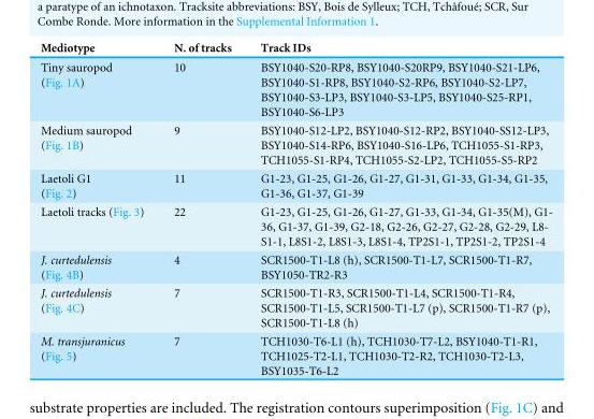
<table><thead><tr><td>Mediotype</td><td>N. of tracks</td><td>Track IDs</td></tr></thead><tbody><tr><td>Tiny sauropod (Fig. 1A)</td><td>10</td><td>BSY1040-S20-RP8, BSY1040-S20RP9, BSY1040-S21-LP6, BSY1040-S1-RP8, BSY1040-S2-RP6, BSY1040-S2-LP7, BSY1040-S3-LP3, BSY1040-S3-LP5, BSY1040-S25-RP1, BSY1040-S6-LP3</td></tr><tr><td>Medium sauropod (Fig. 1B)</td><td>9</td><td>BSY1040-S12-LP2, BSY1040-S12-RP2, BSY1040-SS12-LP3, BSY1040-S14-RP6, BSY1040-S16-LP6, TCH1055-S1-RP3, TCH1055-S1-RP4, TCH1055-S2-LP2, TCH1055-S5-RP2</td></tr><tr><td>Laetoli G1 (Fig. 2)</td><td>11</td><td>G1-23, G1-25, G1-26, G1-27, G1-31, G1-33, G1-34, G1-35, G1-36, G1-37, G1-39</td></tr><tr><td>Laetoli tracks (Fig. 3)</td><td>22</td><td>G1-23, G1-25, G1-26, G1-27, G1-33, G1-34, G1-35(M), G1- 36, G1-37, G1-39, G2-18, G2-26, G2-27, G2-28, G2-29, L8- S1-1, L8S1-2, L8S1-3, L8S1-4, TP2S1-1, TP2S1-2, TP2S1-4</td></tr><tr><td>J. curtedulensis (Fig. 4B)</td><td>4</td><td>SCR1500-T1-L8 (h), SCR1500-T1-L7, SCR1500-T1-R7, BSY1050-TR2-R3</td></tr><tr><td>J. curtedulensis (Fig. 4C)</td><td>7</td><td>SCR1500-T1-R3, SCR1500-T1-L4, SCR1500-T1-R4, SCR1500-T1-L5, SCR1500-T1-L7 (p), SCR1500-T1-R7 (p), SCR1500-T1-L8 (h)</td></tr><tr><td>M. transjuranicus (Fig. 5)</td><td>7</td><td>TCH1030-T6-L1 (h), TCH1030-T7-L2, BSY1040-T1-R1, TCH1025-T2-L1, TCH1030-T2-R2, TCH1030-T2-L3, BSY1035-T6-L2</td></tr></tbody></table>